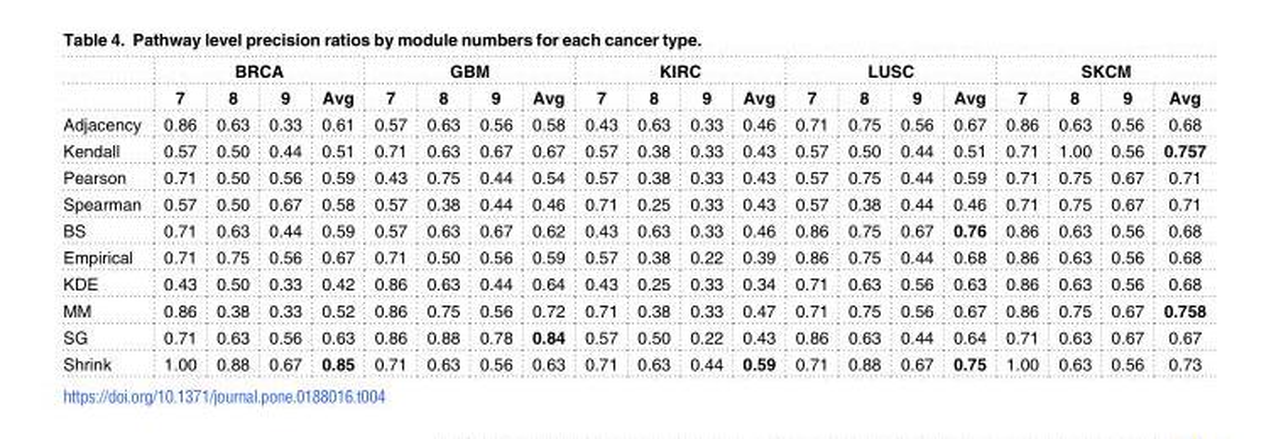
<table><thead><tr><td rowspan="2"></td><td colspan="4">BRCA</td><td colspan="4">GBM</td><td colspan="4">KIRC</td><td colspan="4">LUSC</td><td colspan="4">SKCM</td></tr><tr><td>7</td><td>8</td><td>9</td><td>Avg</td><td>7</td><td>8</td><td>9</td><td>Avg</td><td>7</td><td>8</td><td>9</td><td>Avg</td><td>7</td><td>8</td><td>9</td><td>Avg</td><td>7</td><td>8</td><td>9</td><td>Avg</td></tr></thead><tbody><tr><td>Adjacency</td><td>0.86</td><td>0.63</td><td>0.33</td><td>0.61</td><td>0.57</td><td>0.63</td><td>0.56</td><td>0.58</td><td>0.43</td><td>0.63</td><td>0.33</td><td>0.46</td><td>0.71</td><td>0.75</td><td>0.56</td><td>0.67</td><td>0.86</td><td>0.63</td><td>0.56</td><td>0.68</td></tr><tr><td>Kendall</td><td>0.57</td><td>0.50</td><td>0.44</td><td>0.51</td><td>0.71</td><td>0.63</td><td>0.67</td><td>0.67</td><td>0.57</td><td>0.38</td><td>0.33</td><td>0.43</td><td>0.57</td><td>0.50</td><td>0.44</td><td>0.51</td><td>0.71</td><td>1.00</td><td>0.56</td><td>0.757</td></tr><tr><td>Pearson</td><td>0.71</td><td>0.50</td><td>0.56</td><td>0.59</td><td>0.43</td><td>0.75</td><td>0.44</td><td>0.54</td><td>0.57</td><td>0.38</td><td>0.33</td><td>0.43</td><td>0.57</td><td>0.75</td><td>0.44</td><td>0.59</td><td>0.71</td><td>0.75</td><td>0.67</td><td>0.71</td></tr><tr><td>Spearman</td><td>0.57</td><td>0.50</td><td>0.67</td><td>0.58</td><td>0.57</td><td>0.38</td><td>0.44</td><td>0.46</td><td>0.71</td><td>0.25</td><td>0.33</td><td>0.43</td><td>0.57</td><td>0.38</td><td>0.44</td><td>0.46</td><td>0.71</td><td>0.75</td><td>0.67</td><td>0.71</td></tr><tr><td>BS</td><td>0.71</td><td>0.63</td><td>0.44</td><td>0.59</td><td>0.57</td><td>0.63</td><td>0.67</td><td>0.62</td><td>0.43</td><td>0.63</td><td>0.33</td><td>0.46</td><td>0.86</td><td>0.75</td><td>0.67</td><td>0.76</td><td>0.86</td><td>0.63</td><td>0.56</td><td>0.68</td></tr><tr><td>Empirical</td><td>0.71</td><td>0.75</td><td>0.56</td><td>0.67</td><td>0.71</td><td>0.50</td><td>0.56</td><td>0.59</td><td>0.57</td><td>0.38</td><td>0.22</td><td>0.39</td><td>0.86</td><td>0.75</td><td>0.44</td><td>0.68</td><td>0.86</td><td>0.63</td><td>0.56</td><td>0.68</td></tr><tr><td>KDE</td><td>0.43</td><td>0.50</td><td>0.33</td><td>0.42</td><td>0.86</td><td>0.63</td><td>0.44</td><td>0.64</td><td>0.43</td><td>0.25</td><td>0.33</td><td>0.34</td><td>0.71</td><td>0.63</td><td>0.56</td><td>0.63</td><td>0.86</td><td>0.63</td><td>0.56</td><td>0.68</td></tr><tr><td>MM</td><td>0.86</td><td>0.38</td><td>0.33</td><td>0.52</td><td>0.86</td><td>0.75</td><td>0.56</td><td>0.72</td><td>0.71</td><td>0.38</td><td>0.33</td><td>0.47</td><td>0.71</td><td>0.75</td><td>0.56</td><td>0.67</td><td>0.86</td><td>0.75</td><td>0.67</td><td>0.758</td></tr><tr><td>SG</td><td>0.71</td><td>0.63</td><td>0.56</td><td>0.63</td><td>0.86</td><td>0.88</td><td>0.78</td><td>0.84</td><td>0.57</td><td>0.50</td><td>0.22</td><td>0.43</td><td>0.86</td><td>0.63</td><td>0.44</td><td>0.64</td><td>0.71</td><td>0.63</td><td>0.67</td><td>0.67</td></tr><tr><td>Shrink</td><td>1.00</td><td>0.88</td><td>0.67</td><td>0.85</td><td>0.71</td><td>0.63</td><td>0.56</td><td>0.63</td><td>0.71</td><td>0.63</td><td>0.44</td><td>0.59</td><td>0.71</td><td>0.88</td><td>0.67</td><td>0.75</td><td>1.00</td><td>0.63</td><td>0.56</td><td>0.73</td></tr></tbody></table>